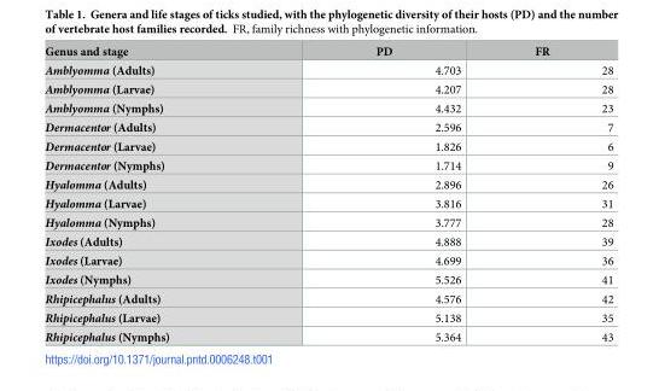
<table><thead><tr><td>Genus and stage</td><td>PD</td><td>FR</td></tr></thead><tbody><tr><td>Amblyomma (Adults)</td><td>4.703</td><td>28</td></tr><tr><td>Amblyomma (Larvae)</td><td>4.207</td><td>28</td></tr><tr><td>Amblyomma (Nymphs)</td><td>4.432</td><td>23</td></tr><tr><td>Dermacentor (Adults)</td><td>2.596</td><td>7</td></tr><tr><td>Dermacentor (Larvae)</td><td>1.826</td><td>6</td></tr><tr><td>Dermacentor (Nymphs)</td><td>1.714</td><td>9</td></tr><tr><td>Hyalomma (Adults)</td><td>2.896</td><td>26</td></tr><tr><td>Hyalomma (Larvae)</td><td>3.816</td><td>31</td></tr><tr><td>Hyalomma (Nymphs)</td><td>3.777</td><td>28</td></tr><tr><td>Ixodes (Adults)</td><td>4.888</td><td>39</td></tr><tr><td>Ixodes (Larvae)</td><td>4.699</td><td>36</td></tr><tr><td>Ixodes (Nymphs)</td><td>5.526</td><td>41</td></tr><tr><td>Rhipicephalus (Adults)</td><td>4.576</td><td>42</td></tr><tr><td>Rhipicephalus (Larvae)</td><td>5.138</td><td>35</td></tr><tr><td>Rhipicephalus (Nymphs)</td><td>5.364</td><td>43</td></tr></tbody></table>